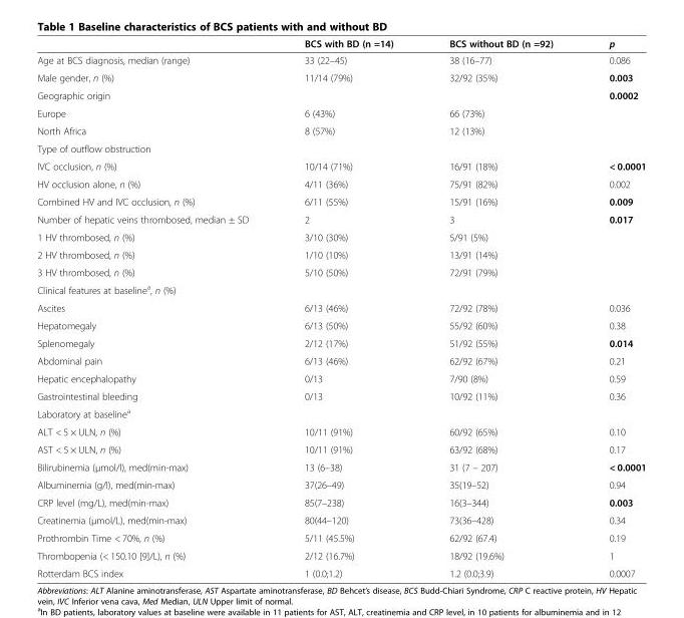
<table><thead><tr><td></td><td>BCS with BD (n =14)</td><td>BCS without BD (n =92)</td><td>p</td></tr></thead><tbody><tr><td>Age at BCS diagnosis, median (range)</td><td>33 (22–45)</td><td>38 (16–77)</td><td>0.086</td></tr><tr><td>Male gender, n (%)</td><td>11/14 (79%)</td><td>32/92 (35%)</td><td>0.003</td></tr><tr><td>Geographic origin</td><td></td><td></td><td>0.0002</td></tr><tr><td>Europe</td><td>6 (43%)</td><td>66 (73%)</td><td></td></tr><tr><td>North Africa</td><td>8 (57%)</td><td>12 (13%)</td><td></td></tr><tr><td colspan="4">Type of outflow obstruction</td></tr><tr><td>IVC occlusion, n (%)</td><td>10/14 (71%)</td><td>16/91 (18%)</td><td>&lt; 0.0001</td></tr><tr><td>HV occlusion alone, n (%)</td><td>4/11 (36%)</td><td>75/91 (82%)</td><td>0.002</td></tr><tr><td>Combined HV and IVC occlusion, n (%)</td><td>6/11 (55%)</td><td>15/91 (16%)</td><td>0.009</td></tr><tr><td>Number of hepatic veins thrombosed, median ± SD</td><td>2</td><td>3</td><td>0.017</td></tr><tr><td>1 HV thrombosed, n (%)</td><td>3/10 (30%)</td><td>5/91 (5%)</td><td></td></tr><tr><td>2 HV thrombosed, n (%)</td><td>1/10 (10%)</td><td>13/91 (14%)</td><td></td></tr><tr><td>3 HV thrombosed, n (%)</td><td>5/10 (50%)</td><td>72/91 (79%)</td><td></td></tr><tr><td colspan="4">Clinical features at baseline<sup>a</sup>, n (%)</td></tr><tr><td>Ascites</td><td>6/13 (46%)</td><td>72/92 (78%)</td><td>0.036</td></tr><tr><td>Hepatomegaly</td><td>6/13 (50%)</td><td>55/92 (60%)</td><td>0.38</td></tr><tr><td>Splenomegaly</td><td>2/12 (17%)</td><td>51/92 (55%)</td><td>0.014</td></tr><tr><td>Abdominal pain</td><td>6/13 (46%)</td><td>62/92 (67%)</td><td>0.21</td></tr><tr><td>Hepatic encephalopathy</td><td>0/13</td><td>7/90 (8%)</td><td>0.59</td></tr><tr><td>Gastrointestinal bleeding</td><td>0/13</td><td>10/92 (11%)</td><td>0.36</td></tr><tr><td colspan="4">Laboratory at baseline<sup>a</sup></td></tr><tr><td>ALT &lt; 5 × ULN, n (%)</td><td>10/11 (91%)</td><td>60/92 (65%)</td><td>0.10</td></tr><tr><td>AST &lt; 5 × ULN, n (%)</td><td>10/11 (91%)</td><td>63/92 (68%)</td><td>0.17</td></tr><tr><td>Bilirubinemia (μmol/l), med(min-max)</td><td>13 (6–38)</td><td>31 (7 – 207)</td><td>&lt; 0.0001</td></tr><tr><td>Albuminemia (g/l), med(min-max)</td><td>37(26–49)</td><td>35(19–52)</td><td>0.94</td></tr><tr><td>CRP level (mg/L), med(min-max)</td><td>85(7–238)</td><td>16(3–344)</td><td>0.003</td></tr><tr><td>Creatinemia (μmol/L), med(min-max)</td><td>80(44–120)</td><td>73(36–428)</td><td>0.34</td></tr><tr><td>Prothrombin Time &lt; 70%, n (%)</td><td>5/11 (45.5%)</td><td>62/92 (67.4)</td><td>0.19</td></tr><tr><td>Thrombopenia (&lt; 150.10 [9]/L), n (%)</td><td>2/12 (16.7%)</td><td>18/92 (19.6%)</td><td>1</td></tr><tr><td>Rotterdam BCS index</td><td>1 (0.0;1.2)</td><td>1.2 (0.0;3.9)</td><td>0.0007</td></tr></tbody></table>